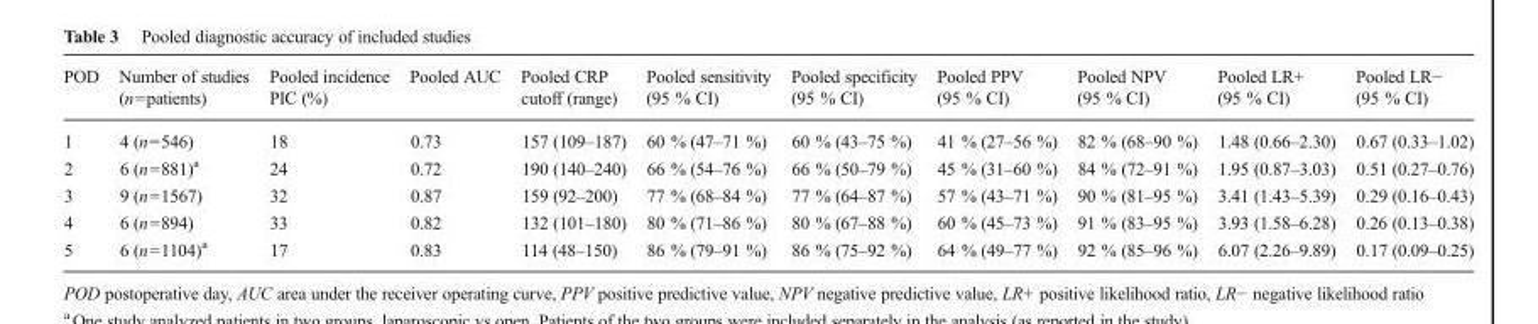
<table><thead><tr><td>POD</td><td>Number of studies (n=patients)</td><td>Pooled incidence PIC (%)</td><td>Pooled AUC</td><td>Pooled CRP cutoff (range)</td><td>Pooled sensitivity (95 % CI)</td><td>Pooled specificity (95 % CI)</td><td>Pooled PPV (95 % CI)</td><td>Pooled NPV (95 % CI)</td><td>Pooled LR+ (95 % CI)</td><td>Pooled LR− (95 % CI)</td></tr></thead><tbody><tr><td>1</td><td>4 (n=546)</td><td>18</td><td>0.73</td><td>157 (109–187)</td><td>60 % (47–71 %)</td><td>60 % (43–75 %)</td><td>41 % (27–56 %)</td><td>82 % (68–90 %)</td><td>1.48 (0.66–2.30)</td><td>0.67 (0.33–1.02)</td></tr><tr><td>2</td><td>6 (n=881)<sup>a</sup></td><td>24</td><td>0.72</td><td>190 (140–240)</td><td>66 % (54–76 %)</td><td>66 % (50–79 %)</td><td>45 % (31–60 %)</td><td>84 % (72–91 %)</td><td>1.95 (0.87–3.03)</td><td>0.51 (0.27–0.76)</td></tr><tr><td>3</td><td>9 (n=1567)</td><td>32</td><td>0.87</td><td>159 (92–200)</td><td>77 % (68–84 %)</td><td>77 % (64–87 %)</td><td>57 % (43–71 %)</td><td>90 % (81–95 %)</td><td>3.41 (1.43–5.39)</td><td>0.29 (0.16–0.43)</td></tr><tr><td>4</td><td>6 (n=894)</td><td>33</td><td>0.82</td><td>132 (101–180)</td><td>80 % (71–86 %)</td><td>80 % (67–88 %)</td><td>60 % (45–73 %)</td><td>91 % (83–95 %)</td><td>3.93 (1.58–6.28)</td><td>0.26 (0.13–0.38)</td></tr><tr><td>5</td><td>6 (n=1104)<sup>a</sup></td><td>17</td><td>0.83</td><td>114 (48–150)</td><td>86 % (79–91 %)</td><td>86 % (75–92 %)</td><td>64 % (49–77 %)</td><td>92 % (85–96 %)</td><td>6.07 (2.26–9.89)</td><td>0.17 (0.09–0.25)</td></tr></tbody></table>